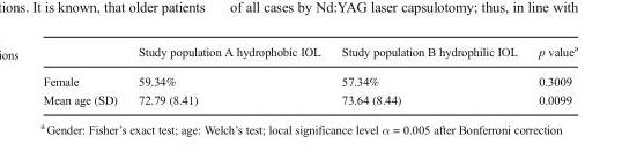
<table><thead><tr><td></td><td>Study population A hydrophobic IOL</td><td>Study population B hydrophilic IOL</td><td>p value<sup>a</sup></td></tr></thead><tbody><tr><td>Female</td><td>59.34%</td><td>57.34%</td><td>0.3009</td></tr><tr><td>Mean age (SD)</td><td>72.79 (8.41)</td><td>73.64 (8.44)</td><td>0.0099</td></tr></tbody></table>